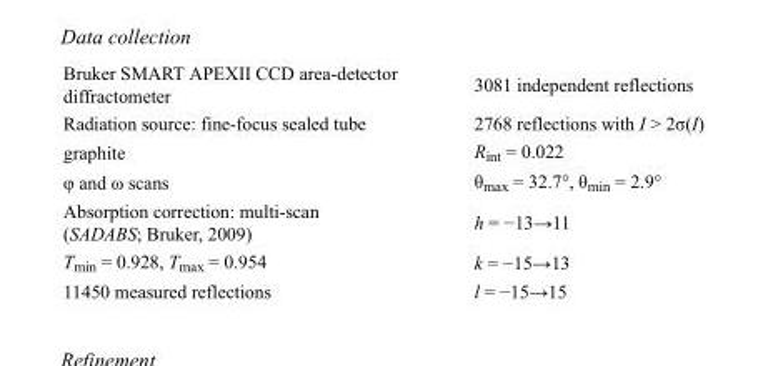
<table><tbody><tr><td>Bruker SMART APEXII CCD area-detector diffractometer</td><td>3081 independent reflections</td></tr><tr><td>Radiation source: fine-focus sealed tube</td><td>2768 reflections with I &gt; 2σ(I)</td></tr><tr><td>graphite</td><td>R<sub>int</sub> = 0.022</td></tr><tr><td>φ and ω scans</td><td>θ<sub>max</sub> = 32.7°, θ<sub>min</sub> = 2.9°</td></tr><tr><td>Absorption correction: multi-scan (SADABS; Bruker, 2009)</td><td>h = −13→11</td></tr><tr><td>T<sub>min</sub> = 0.928, T<sub>max</sub> = 0.954</td><td>k = −15→13</td></tr><tr><td>11450 measured reflections</td><td>l = −15→15</td></tr></tbody></table>